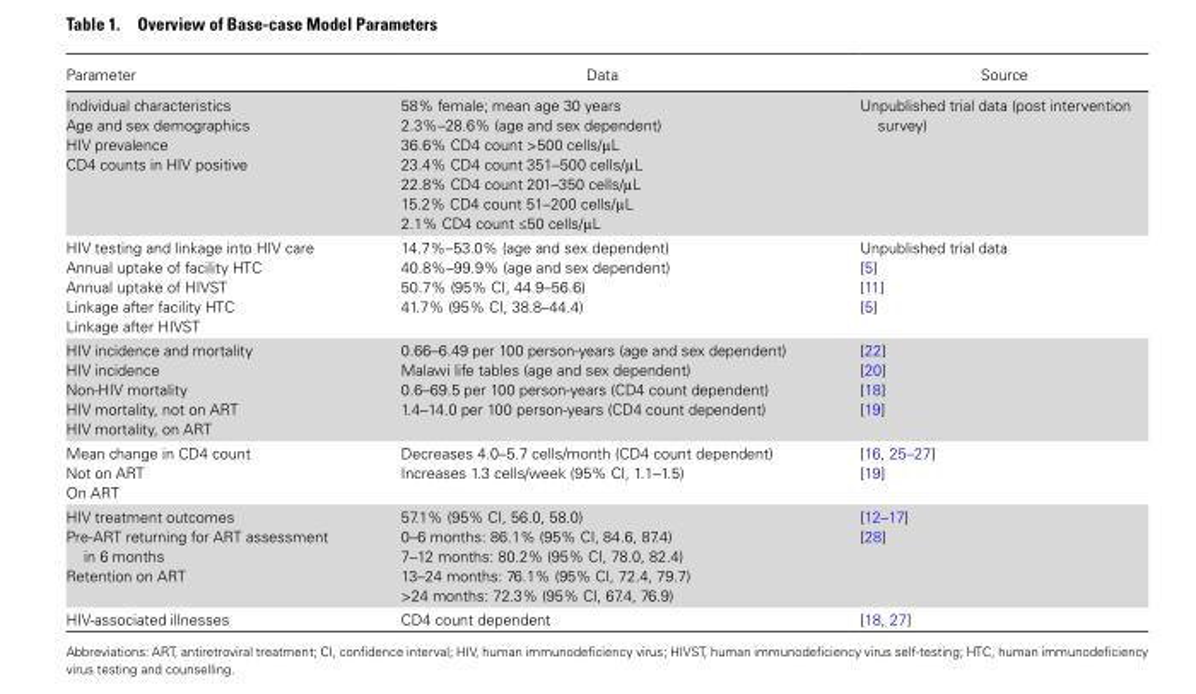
<table><thead><tr><td>Parameter</td><td>Data</td><td>Source</td></tr></thead><tbody><tr><td>Individual characteristics Age and sex demographics HIV prevalence CD4 counts in HIV positive</td><td>58% female; mean age 30 years 2.3%–28.6% (age and sex dependent) 36.6% CD4 count &gt;500 cells/μL 23.4% CD4 count 351–500 cells/μL 22.8% CD4 count 201–350 cells/μL 15.2% CD4 count 51–200 cells/μL 2.1% CD4 count ≤50 cells/μL</td><td>Unpublished trial data (post intervention survey)</td></tr><tr><td>HIV testing and linkage into HIV care Annual uptake of facility HTC Annual uptake of HIVST Linkage after facility HTC Linkage after HIVST</td><td>14.7%–53.0% (age and sex dependent) 40.8%–99.9% (age and sex dependent) 50.7% (95% CI, 44.9–56.6) 41.7% (95% CI, 38.8–44.4)</td><td>Unpublished trial data [5] [11] [5]</td></tr><tr><td>HIV incidence and mortality HIV incidence Non-HIV mortality HIV mortality, not on ART HIV mortality, on ART</td><td>0.66–6.49 per 100 person-years (age and sex dependent) Malawi life tables (age and sex dependent) 0.6–69.5 per 100 person-years (CD4 count dependent) 1.4–14.0 per 100 person-years (CD4 count dependent)</td><td>[22] [20] [18] [19]</td></tr><tr><td>Mean change in CD4 count Not on ART On ART</td><td>Decreases 4.0–5.7 cells/month (CD4 count dependent) Increases 1.3 cells/week (95% CI, 1.1–1.5)</td><td>[16, 25–27] [19]</td></tr><tr><td>HIV treatment outcomes Pre-ART returning for ART assessment in 6 months Retention on ART</td><td>57.1% (95% CI, 56.0, 58.0) 0–6 months: 86.1% (95% CI, 84.6, 87.4) 7–12 months: 80.2% (95% CI, 78.0, 82.4) 13–24 months: 76.1% (95% CI, 72.4, 79.7) &gt;24 months: 72.3% (95% CI, 67.4, 76.9)</td><td>[12–17] [28]</td></tr><tr><td>HIV-associated illnesses</td><td>CD4 count dependent</td><td>[18, 27]</td></tr></tbody></table>